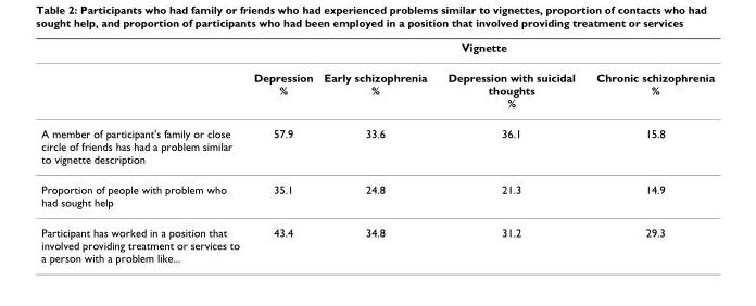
<table><thead><tr><td rowspan="2"></td><td colspan="4">Vignette</td></tr><tr><td>Depression %</td><td>Early schizophrenia %</td><td>Depression with suicidal thoughts %</td><td>Chronic schizophrenia %</td></tr></thead><tbody><tr><td>A member of participant&#x27;s family or close circle of friends has had a problem similar to vignette description</td><td>57.9</td><td>33.6</td><td>36.1</td><td>15.8</td></tr><tr><td>Proportion of people with problem who had sought help</td><td>35.1</td><td>24.8</td><td>21.3</td><td>14.9</td></tr><tr><td>Participant has worked in a position that involved providing treatment or services to a person with a problem like...</td><td>43.4</td><td>34.8</td><td>31.2</td><td>29.3</td></tr></tbody></table>